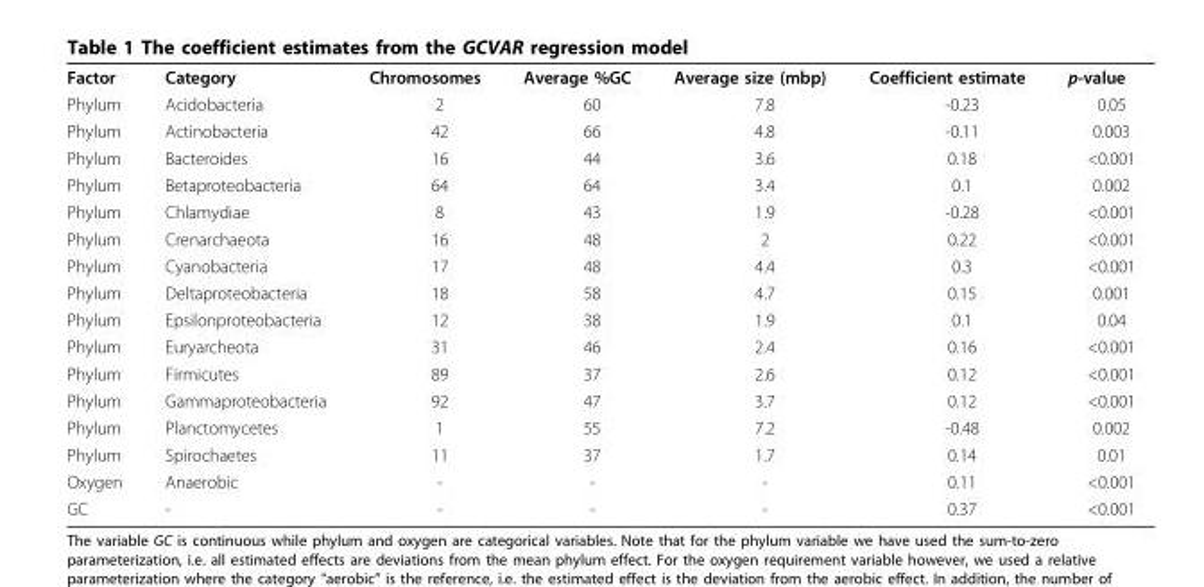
<table><tbody><tr><td>Factor</td><td>Category</td><td>Chromosomes</td><td>Average %GC</td><td>Average size (mbp)</td><td>Coefficient estimate</td><td>p-value</td></tr><tr><td>Phylum</td><td>Acidobacteria</td><td>2</td><td>60</td><td>7.8</td><td>-0.23</td><td>0.05</td></tr><tr><td>Phylum</td><td>Actinobacteria</td><td>42</td><td>66</td><td>4.8</td><td>-0.11</td><td>0.003</td></tr><tr><td>Phylum</td><td>Bacteroides</td><td>16</td><td>44</td><td>3.6</td><td>0.18</td><td>&lt;0.001</td></tr><tr><td>Phylum</td><td>Betaproteobacteria</td><td>64</td><td>64</td><td>3.4</td><td>0.1</td><td>0.002</td></tr><tr><td>Phylum</td><td>Chlamydiae</td><td>8</td><td>43</td><td>1.9</td><td>-0.28</td><td>&lt;0.001</td></tr><tr><td>Phylum</td><td>Crenarchaeota</td><td>16</td><td>48</td><td>2</td><td>0.22</td><td>&lt;0.001</td></tr><tr><td>Phylum</td><td>Cyanobacteria</td><td>17</td><td>48</td><td>4.4</td><td>0.3</td><td>&lt;0.001</td></tr><tr><td>Phylum</td><td>Deltaproteobacteria</td><td>18</td><td>58</td><td>4.7</td><td>0.15</td><td>0.001</td></tr><tr><td>Phylum</td><td>Epsilonproteobacteria</td><td>12</td><td>38</td><td>1.9</td><td>0.1</td><td>0.04</td></tr><tr><td>Phylum</td><td>Euryarcheota</td><td>31</td><td>46</td><td>2.4</td><td>0.16</td><td>&lt;0.001</td></tr><tr><td>Phylum</td><td>Firmicutes</td><td>89</td><td>37</td><td>2.6</td><td>0.12</td><td>&lt;0.001</td></tr><tr><td>Phylum</td><td>Gammaproteobacteria</td><td>92</td><td>47</td><td>3.7</td><td>0.12</td><td>&lt;0.001</td></tr><tr><td>Phylum</td><td>Planctomycetes</td><td>1</td><td>55</td><td>7.2</td><td>-0.48</td><td>0.002</td></tr><tr><td>Phylum</td><td>Spirochaetes</td><td>11</td><td>37</td><td>1.7</td><td>0.14</td><td>0.01</td></tr><tr><td>Oxygen</td><td>Anaerobic</td><td>-</td><td>-</td><td>-</td><td>0.11</td><td>&lt;0.001</td></tr><tr><td>GC</td><td>-</td><td>-</td><td>-</td><td>-</td><td>0.37</td><td>&lt;0.001</td></tr></tbody></table>